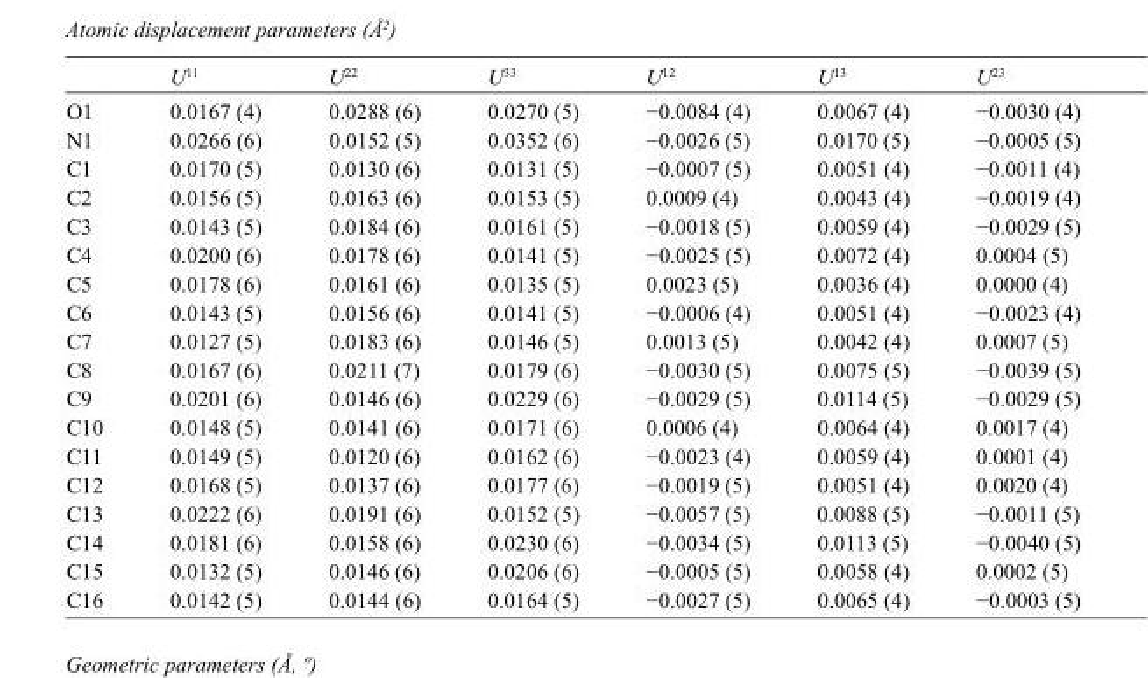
<table><thead><tr><td></td><td>U<sup>11</sup></td><td>U<sup>22</sup></td><td>U<sup>33</sup></td><td>U<sup>12</sup></td><td>U<sup>13</sup></td><td>U<sup>23</sup></td></tr></thead><tbody><tr><td>O1</td><td>0.0167 (4)</td><td>0.0288 (6)</td><td>0.0270 (5)</td><td>−0.0084 (4)</td><td>0.0067 (4)</td><td>−0.0030 (4)</td></tr><tr><td>N1</td><td>0.0266 (6)</td><td>0.0152 (5)</td><td>0.0352 (6)</td><td>−0.0026 (5)</td><td>0.0170 (5)</td><td>−0.0005 (5)</td></tr><tr><td>C1</td><td>0.0170 (5)</td><td>0.0130 (6)</td><td>0.0131 (5)</td><td>−0.0007 (5)</td><td>0.0051 (4)</td><td>−0.0011 (4)</td></tr><tr><td>C2</td><td>0.0156 (5)</td><td>0.0163 (6)</td><td>0.0153 (5)</td><td>0.0009 (4)</td><td>0.0043 (4)</td><td>−0.0019 (4)</td></tr><tr><td>C3</td><td>0.0143 (5)</td><td>0.0184 (6)</td><td>0.0161 (5)</td><td>−0.0018 (5)</td><td>0.0059 (4)</td><td>−0.0029 (5)</td></tr><tr><td>C4</td><td>0.0200 (6)</td><td>0.0178 (6)</td><td>0.0141 (5)</td><td>−0.0025 (5)</td><td>0.0072 (4)</td><td>0.0004 (5)</td></tr><tr><td>C5</td><td>0.0178 (6)</td><td>0.0161 (6)</td><td>0.0135 (5)</td><td>0.0023 (5)</td><td>0.0036 (4)</td><td>0.0000 (4)</td></tr><tr><td>C6</td><td>0.0143 (5)</td><td>0.0156 (6)</td><td>0.0141 (5)</td><td>−0.0006 (4)</td><td>0.0051 (4)</td><td>−0.0023 (4)</td></tr><tr><td>C7</td><td>0.0127 (5)</td><td>0.0183 (6)</td><td>0.0146 (5)</td><td>0.0013 (5)</td><td>0.0042 (4)</td><td>0.0007 (5)</td></tr><tr><td>C8</td><td>0.0167 (6)</td><td>0.0211 (7)</td><td>0.0179 (6)</td><td>−0.0030 (5)</td><td>0.0075 (5)</td><td>−0.0039 (5)</td></tr><tr><td>C9</td><td>0.0201 (6)</td><td>0.0146 (6)</td><td>0.0229 (6)</td><td>−0.0029 (5)</td><td>0.0114 (5)</td><td>−0.0029 (5)</td></tr><tr><td>C10</td><td>0.0148 (5)</td><td>0.0141 (6)</td><td>0.0171 (6)</td><td>0.0006 (4)</td><td>0.0064 (4)</td><td>0.0017 (4)</td></tr><tr><td>C11</td><td>0.0149 (5)</td><td>0.0120 (6)</td><td>0.0162 (6)</td><td>−0.0023 (4)</td><td>0.0059 (4)</td><td>0.0001 (4)</td></tr><tr><td>C12</td><td>0.0168 (5)</td><td>0.0137 (6)</td><td>0.0177 (6)</td><td>−0.0019 (5)</td><td>0.0051 (4)</td><td>0.0020 (4)</td></tr><tr><td>C13</td><td>0.0222 (6)</td><td>0.0191 (6)</td><td>0.0152 (5)</td><td>−0.0057 (5)</td><td>0.0088 (5)</td><td>−0.0011 (5)</td></tr><tr><td>C14</td><td>0.0181 (6)</td><td>0.0158 (6)</td><td>0.0230 (6)</td><td>−0.0034 (5)</td><td>0.0113 (5)</td><td>−0.0040 (5)</td></tr><tr><td>C15</td><td>0.0132 (5)</td><td>0.0146 (6)</td><td>0.0206 (6)</td><td>−0.0005 (5)</td><td>0.0058 (4)</td><td>0.0002 (5)</td></tr><tr><td>C16</td><td>0.0142 (5)</td><td>0.0144 (6)</td><td>0.0164 (5)</td><td>−0.0027 (5)</td><td>0.0065 (4)</td><td>−0.0003 (5)</td></tr></tbody></table>